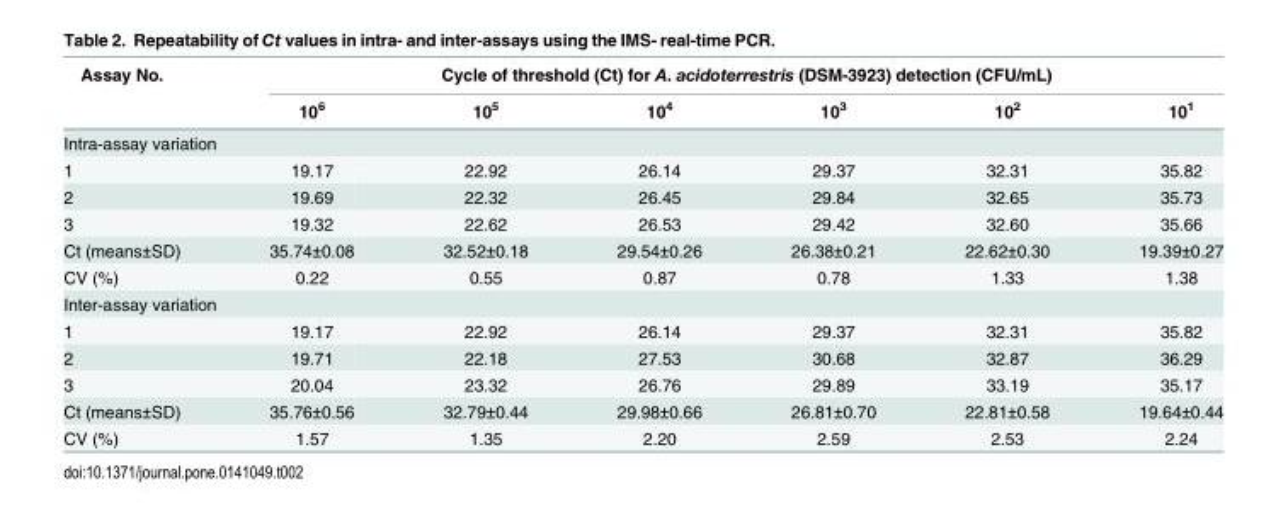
<table><thead><tr><td rowspan="2">Assay No.</td><td colspan="6">Cycle of threshold (Ct) for A. acidoterrestris (DSM-3923) detection (CFU/mL)</td></tr><tr><td>10<sup>6</sup></td><td>10<sup>5</sup></td><td>10<sup>4</sup></td><td>10<sup>3</sup></td><td>10<sup>2</sup></td><td>10<sup>1</sup></td></tr></thead><tbody><tr><td colspan="7">Intra-assay variation</td></tr><tr><td>1</td><td>19.17</td><td>22.92</td><td>26.14</td><td>29.37</td><td>32.31</td><td>35.82</td></tr><tr><td>2</td><td>19.69</td><td>22.32</td><td>26.45</td><td>29.84</td><td>32.65</td><td>35.73</td></tr><tr><td>3</td><td>19.32</td><td>22.62</td><td>26.53</td><td>29.42</td><td>32.60</td><td>35.66</td></tr><tr><td>Ct (means±SD)</td><td>35.74±0.08</td><td>32.52±0.18</td><td>29.54±0.26</td><td>26.38±0.21</td><td>22.62±0.30</td><td>19.39±0.27</td></tr><tr><td>CV (%)</td><td>0.22</td><td>0.55</td><td>0.87</td><td>0.78</td><td>1.33</td><td>1.38</td></tr><tr><td colspan="7">Inter-assay variation</td></tr><tr><td>1</td><td>19.17</td><td>22.92</td><td>26.14</td><td>29.37</td><td>32.31</td><td>35.82</td></tr><tr><td>2</td><td>19.71</td><td>22.18</td><td>27.53</td><td>30.68</td><td>32.87</td><td>36.29</td></tr><tr><td>3</td><td>20.04</td><td>23.32</td><td>26.76</td><td>29.89</td><td>33.19</td><td>35.17</td></tr><tr><td>Ct (means±SD)</td><td>35.76±0.56</td><td>32.79±0.44</td><td>29.98±0.66</td><td>26.81±0.70</td><td>22.81±0.58</td><td>19.64±0.44</td></tr><tr><td>CV (%)</td><td>1.57</td><td>1.35</td><td>2.20</td><td>2.59</td><td>2.53</td><td>2.24</td></tr></tbody></table>